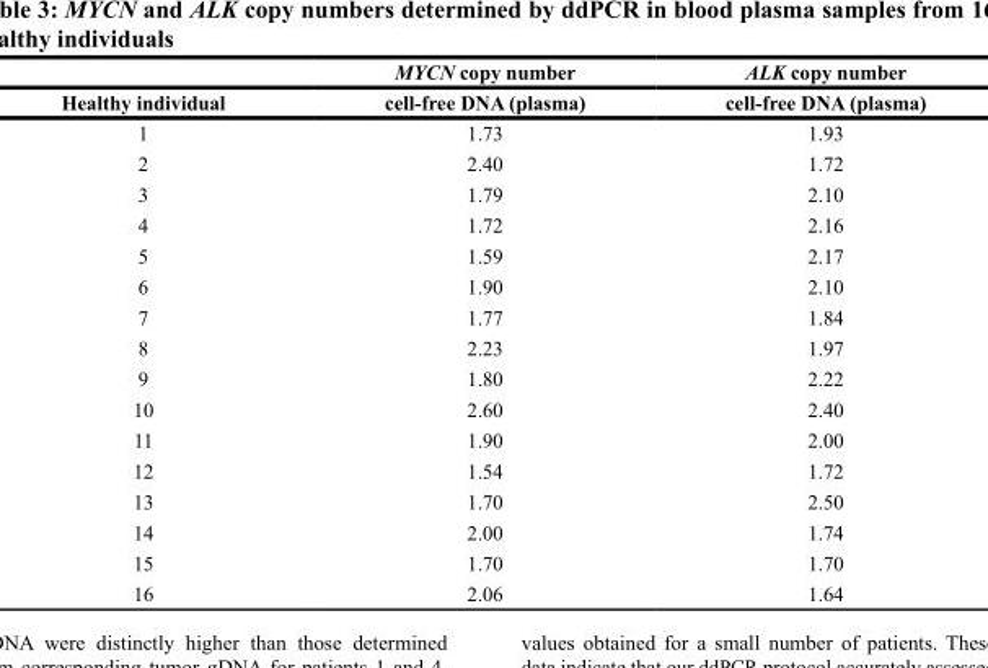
<table><thead><tr><td rowspan="2">Healthy individual</td><td rowspan="2">MYCN copy number cell-free DNA (plasma)</td><td rowspan="2">ALK copy number cell-free DNA (plasma)</td></tr><tr></tr></thead><tbody><tr><td>1</td><td>1.73</td><td>1.93</td></tr><tr><td>2</td><td>2.40</td><td>1.72</td></tr><tr><td>3</td><td>1.79</td><td>2.10</td></tr><tr><td>4</td><td>1.72</td><td>2.16</td></tr><tr><td>5</td><td>1.59</td><td>2.17</td></tr><tr><td>6</td><td>1.90</td><td>2.10</td></tr><tr><td>7</td><td>1.77</td><td>1.84</td></tr><tr><td>8</td><td>2.23</td><td>1.97</td></tr><tr><td>9</td><td>1.80</td><td>2.22</td></tr><tr><td>10</td><td>2.60</td><td>2.40</td></tr><tr><td>11</td><td>1.90</td><td>2.00</td></tr><tr><td>12</td><td>1.54</td><td>1.72</td></tr><tr><td>13</td><td>1.70</td><td>2.50</td></tr><tr><td>14</td><td>2.00</td><td>1.74</td></tr><tr><td>15</td><td>1.70</td><td>1.70</td></tr><tr><td>16</td><td>2.06</td><td>1.64</td></tr></tbody></table>